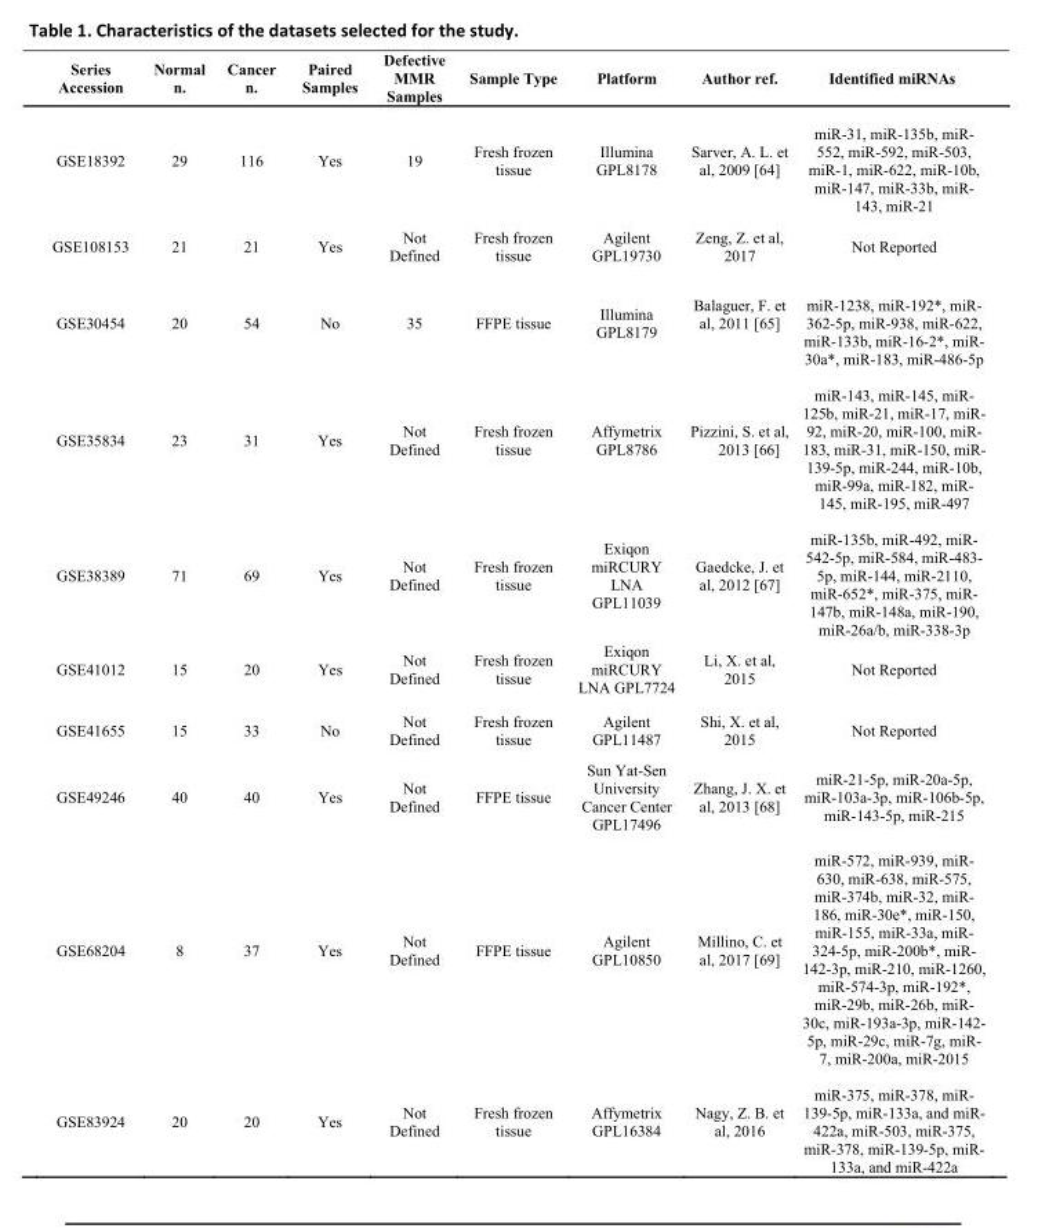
<table><tbody><tr><td>Series Accession</td><td>Normal n.</td><td>Cancer n.</td><td>Paired Samples</td><td>Defective MMR Samples</td><td>Sample Type</td><td>Platform</td><td>Author ref.</td><td>Identified miRNAs</td></tr><tr><td>GSE18392</td><td>29</td><td>116</td><td>Yes</td><td>19</td><td>Fresh frozen tissue</td><td>Illumina GPL8178</td><td>Sarver, A. L. et al, 2009 [64]</td><td>miR-31, miR-135b, miR- 552, miR-592, miR-503, miR-1, miR-622, miR-10b, miR-147, miR-33b, miR- 143, miR-21</td></tr><tr><td>GSE108153</td><td>21</td><td>21</td><td>Yes</td><td>Not Defined</td><td>Fresh frozen tissue</td><td>Agilent GPL19730</td><td>Zeng, Z. et al, 2017</td><td>Not Reported</td></tr><tr><td>GSE30454</td><td>20</td><td>54</td><td>No</td><td>35</td><td>FFPE tissue</td><td>Illumina GPL8179</td><td>Balaguer, F. et al, 2011 [65]</td><td>miR-1238, miR-192*, miR- 362-5p, miR-938, miR-622, miR-133b, miR-16-2*, miR- 30a*, miR-183, miR-486-5p</td></tr><tr><td>GSE35834</td><td>23</td><td>31</td><td>Yes</td><td>Not Defined</td><td>Fresh frozen tissue</td><td>Affymetrix GPL8786</td><td>Pizzini, S. et al, 2013 [66]</td><td>miR-143, miR-145, miR- 125b, miR-21, miR-17, miR- 92, miR-20, miR-100, miR- 183, miR-31, miR-150, miR- 139-5p, miR-244, miR-10b, miR-99a, miR-182, miR- 145, miR-195, miR-497</td></tr><tr><td>GSE38389</td><td>71</td><td>69</td><td>Yes</td><td>Not Defined</td><td>Fresh frozen tissue</td><td>Exiqon miRCURY LNA GPL11039</td><td>Gaedcke, J. et al, 2012 [67]</td><td>miR-135b, miR-492, miR- 542-5p, miR-584, miR-483- 5p, miR-144, miR-2110, miR-652*, miR-375, miR- 147b, miR-148a, miR-190, miR-26a/b, miR-338-3p</td></tr><tr><td>GSE41012</td><td>15</td><td>20</td><td>Yes</td><td>Not Defined</td><td>Fresh frozen tissue</td><td>Exiqon miRCURY LNA GPL7724</td><td>Li, X. et al, 2015</td><td>Not Reported</td></tr><tr><td>GSE41655</td><td>15</td><td>33</td><td>No</td><td>Not Defined</td><td>Fresh frozen tissue</td><td>Agilent GPL11487</td><td>Shi, X. et al, 2015</td><td>Not Reported</td></tr><tr><td>GSE49246</td><td>40</td><td>40</td><td>Yes</td><td>Not Defined</td><td>FFPE tissue</td><td>Sun Yat-Sen University Cancer Center GPL17496</td><td>Zhang, J. X. et al, 2013 [68]</td><td>miR-21-5p, miR-20a-5p, miR-103a-3p, miR-106b-5p, miR-143-5p, miR-215</td></tr><tr><td>GSE68204</td><td>8</td><td>37</td><td>Yes</td><td>Not Defined</td><td>FFPE tissue</td><td>Agilent GPL10850</td><td>Millino, C. et al, 2017 [69]</td><td>miR-572, miR-939, miR- 630, miR-638, miR-575, miR-374b, miR-32, miR- 186, miR-30e*, miR-150, miR-155, miR-33a, miR- 324-5p, miR-200b*, miR- 142-3p, miR-210, miR-1260, miR-574-3p, miR-192*, miR-29b, miR-26b, miR- 30c, miR-193a-3p, miR-142- 5p, miR-29c, miR-7g, miR- 7, miR-200a, miR-2015</td></tr><tr><td>GSE83924</td><td>20</td><td>20</td><td>Yes</td><td>Not Defined</td><td>Fresh frozen tissue</td><td>Affymetrix GPL16384</td><td>Nagy, Z. B. et al, 2016</td><td>miR-375, miR-378, miR- 139-5p, miR-133a, and miR- 422a, miR-503, miR-375, miR-378, miR-139-5p, miR- 133a, and miR-422a</td></tr></tbody></table>